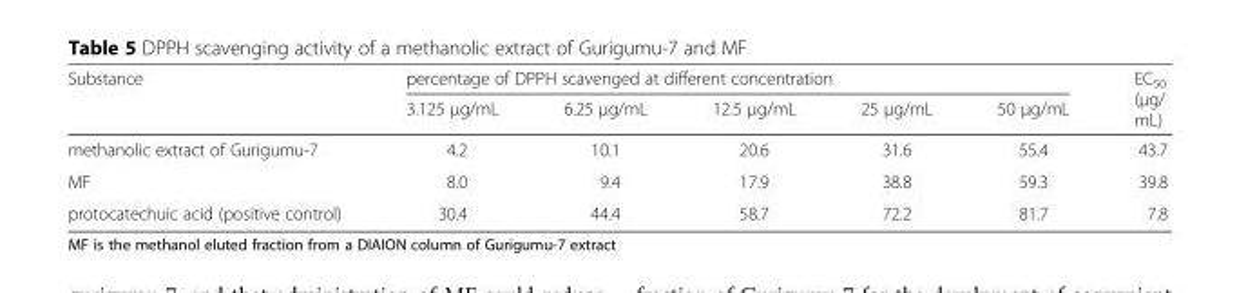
<table><thead><tr><td rowspan="2">Substance</td><td colspan="5">percentage of DPPH scavenged at different concentration</td><td rowspan="2">EC<sub>50</sub> (μg/ mL)</td></tr><tr><td>3.125 μg/mL</td><td>6.25 μg/mL</td><td>12.5 μg/mL</td><td>25 μg/mL</td><td>50 μg/mL</td></tr></thead><tbody><tr><td>methanolic extract of Gurigumu-7</td><td>4.2</td><td>10.1</td><td>20.6</td><td>31.6</td><td>55.4</td><td>43.7</td></tr><tr><td>MF</td><td>8.0</td><td>9.4</td><td>17.9</td><td>38.8</td><td>59.3</td><td>39.8</td></tr><tr><td>protocatechuic acid (positive control)</td><td>30.4</td><td>44.4</td><td>58.7</td><td>72.2</td><td>81.7</td><td>7.8</td></tr></tbody></table>